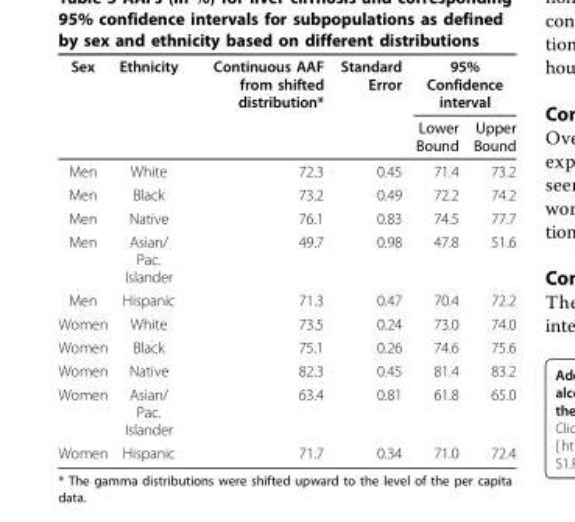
<table><thead><tr><td rowspan="2">Sex</td><td rowspan="2">Ethnicity</td><td rowspan="2">Continuous AAF from shifted distribution*</td><td rowspan="2">Standard Error</td><td colspan="2">95% Confidence interval</td></tr><tr><td>Lower Bound</td><td>Upper Bound</td></tr></thead><tbody><tr><td>Men</td><td>White</td><td>72.3</td><td>0.45</td><td>71.4</td><td>73.2</td></tr><tr><td>Men</td><td>Black</td><td>73.2</td><td>0.49</td><td>72.2</td><td>74.2</td></tr><tr><td>Men</td><td>Native</td><td>76.1</td><td>0.83</td><td>74.5</td><td>77.7</td></tr><tr><td>Men</td><td>Asian/ Pac. Islander</td><td>49.7</td><td>0.98</td><td>47.8</td><td>51.6</td></tr><tr><td>Men</td><td>Hispanic</td><td>71.3</td><td>0.47</td><td>70.4</td><td>72.2</td></tr><tr><td>Women</td><td>White</td><td>73.5</td><td>0.24</td><td>73.0</td><td>74.0</td></tr><tr><td>Women</td><td>Black</td><td>75.1</td><td>0.26</td><td>74.6</td><td>75.6</td></tr><tr><td>Women</td><td>Native</td><td>82.3</td><td>0.45</td><td>81.4</td><td>83.2</td></tr><tr><td>Women</td><td>Asian/ Pac. Islander</td><td>63.4</td><td>0.81</td><td>61.8</td><td>65.0</td></tr><tr><td>Women</td><td>Hispanic</td><td>71.7</td><td>0.34</td><td>71.0</td><td>72.4</td></tr></tbody></table>